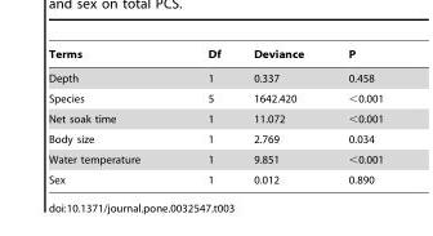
<table><thead><tr><td>Terms</td><td>Df</td><td>Deviance</td><td>P</td></tr></thead><tbody><tr><td>Depth</td><td>1</td><td>0.337</td><td>0.458</td></tr><tr><td>Species</td><td>5</td><td>1642.420</td><td>&lt;0.001</td></tr><tr><td>Net soak time</td><td>1</td><td>11.072</td><td>&lt;0.001</td></tr><tr><td>Body size</td><td>1</td><td>2.769</td><td>0.034</td></tr><tr><td>Water temperature</td><td>1</td><td>9.851</td><td>&lt;0.001</td></tr><tr><td>Sex</td><td>1</td><td>0.012</td><td>0.890</td></tr></tbody></table>